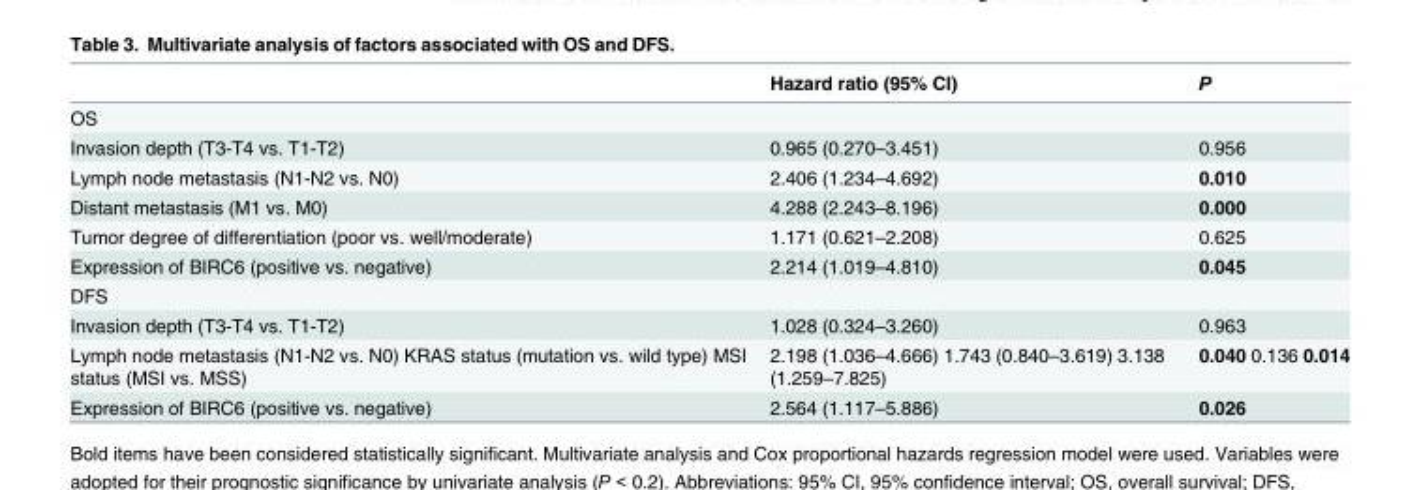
<table><thead><tr><td></td><td>Hazard ratio (95% CI)</td><td>P</td></tr></thead><tbody><tr><td colspan="3">OS</td></tr><tr><td>Invasion depth (T3-T4 vs. T1-T2)</td><td>0.965 (0.270–3.451)</td><td>0.956</td></tr><tr><td>Lymph node metastasis (N1-N2 vs. N0)</td><td>2.406 (1.234–4.692)</td><td>0.010</td></tr><tr><td>Distant metastasis (M1 vs. M0)</td><td>4.288 (2.243–8.196)</td><td>0.000</td></tr><tr><td>Tumor degree of differentiation (poor vs. well/moderate)</td><td>1.171 (0.621–2.208)</td><td>0.625</td></tr><tr><td>Expression of BIRC6 (positive vs. negative)</td><td>2.214 (1.019–4.810)</td><td>0.045</td></tr><tr><td colspan="3">DFS</td></tr><tr><td>Invasion depth (T3-T4 vs. T1-T2)</td><td>1.028 (0.324–3.260)</td><td>0.963</td></tr><tr><td>Lymph node metastasis (N1-N2 vs. N0) KRAS status (mutation vs. wild type) MSI status (MSI vs. MSS)</td><td>2.198 (1.036–4.666) 1.743 (0.840–3.619) 3.138 (1.259–7.825)</td><td>0.040 0.136 0.014</td></tr><tr><td>Expression of BIRC6 (positive vs. negative)</td><td>2.564 (1.117–5.886)</td><td>0.026</td></tr></tbody></table>